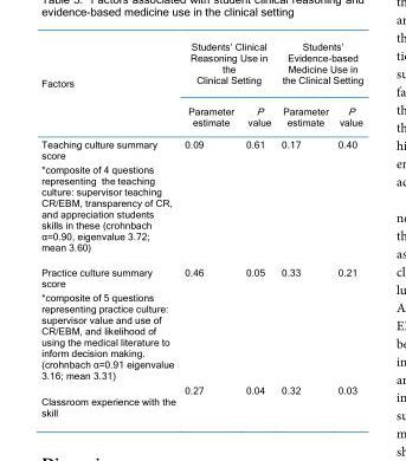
<table><thead><tr><td rowspan="2">Factors</td><td colspan="2">Students’ Clinical Reasoning Use in the Clinical Setting</td><td colspan="2">Students’ Evidence-based Medicine Use in the Clinical Setting</td></tr><tr><td>Parameter estimate</td><td>P value</td><td>Parameter estimate</td><td>P value</td></tr></thead><tbody><tr><td>Teaching culture summary score *composite of 4 questions representing the teaching culture: supervisor teaching CR/EBM, transparency of CR, and appreciation students skills in these (crohnbach α=0.90, eigenvalue 3.72; mean 3.60)</td><td>0.09</td><td>0.61</td><td>0.17</td><td>0.40</td></tr><tr><td>Practice culture summary score *composite of 5 questions representing practice culture: supervisor value and use of CR/EBM, and likelihood of using the medical literature to inform decision making. (crohnbach α=0.91 eigenvalue 3.16; mean 3.31)</td><td>0.46</td><td>0.05</td><td>0.33</td><td>0.21</td></tr><tr><td>Classroom experience with the skill</td><td>0.27</td><td>0.04</td><td>0.32</td><td>0.03</td></tr></tbody></table>